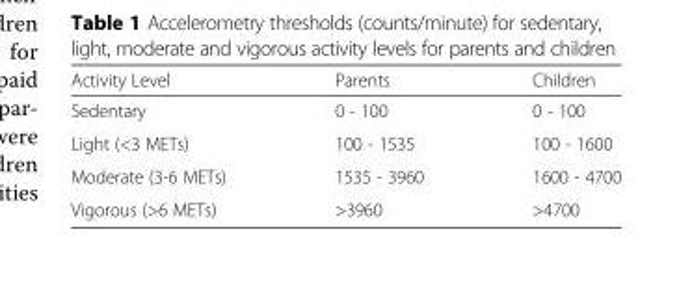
<table><thead><tr><td>Activity Level</td><td>Parents</td><td>Children</td></tr></thead><tbody><tr><td>Sedentary</td><td>0 - 100</td><td>0 - 100</td></tr><tr><td>Light (&lt;3 METs)</td><td>100 - 1535</td><td>100 - 1600</td></tr><tr><td>Moderate (3-6 METs)</td><td>1535 - 3960</td><td>1600 - 4700</td></tr><tr><td>Vigorous (&gt;6 METs)</td><td>&gt;3960</td><td>&gt;4700</td></tr></tbody></table>